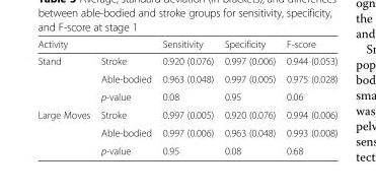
<table><thead><tr><td>Activity</td><td></td><td>Sensitivity</td><td>Specificity</td><td>F-score</td></tr></thead><tbody><tr><td rowspan="3">Stand</td><td>Stroke</td><td>0.920 (0.076)</td><td>0.997 (0.006)</td><td>0.944 (0.053)</td></tr><tr><td>Able-bodied</td><td>0.963 (0.048)</td><td>0.997 (0.005)</td><td>0.975 (0.028)</td></tr><tr><td>p-value</td><td>0.08</td><td>0.95</td><td>0.06</td></tr><tr><td rowspan="3">Large Moves</td><td>Stroke</td><td>0.997 (0.005)</td><td>0.920 (0.076)</td><td>0.994 (0.006)</td></tr><tr><td>Able-bodied</td><td>0.997 (0.006)</td><td>0.963 (0.048)</td><td>0.993 (0.008)</td></tr><tr><td>p-value</td><td>0.95</td><td>0.08</td><td>0.68</td></tr></tbody></table>